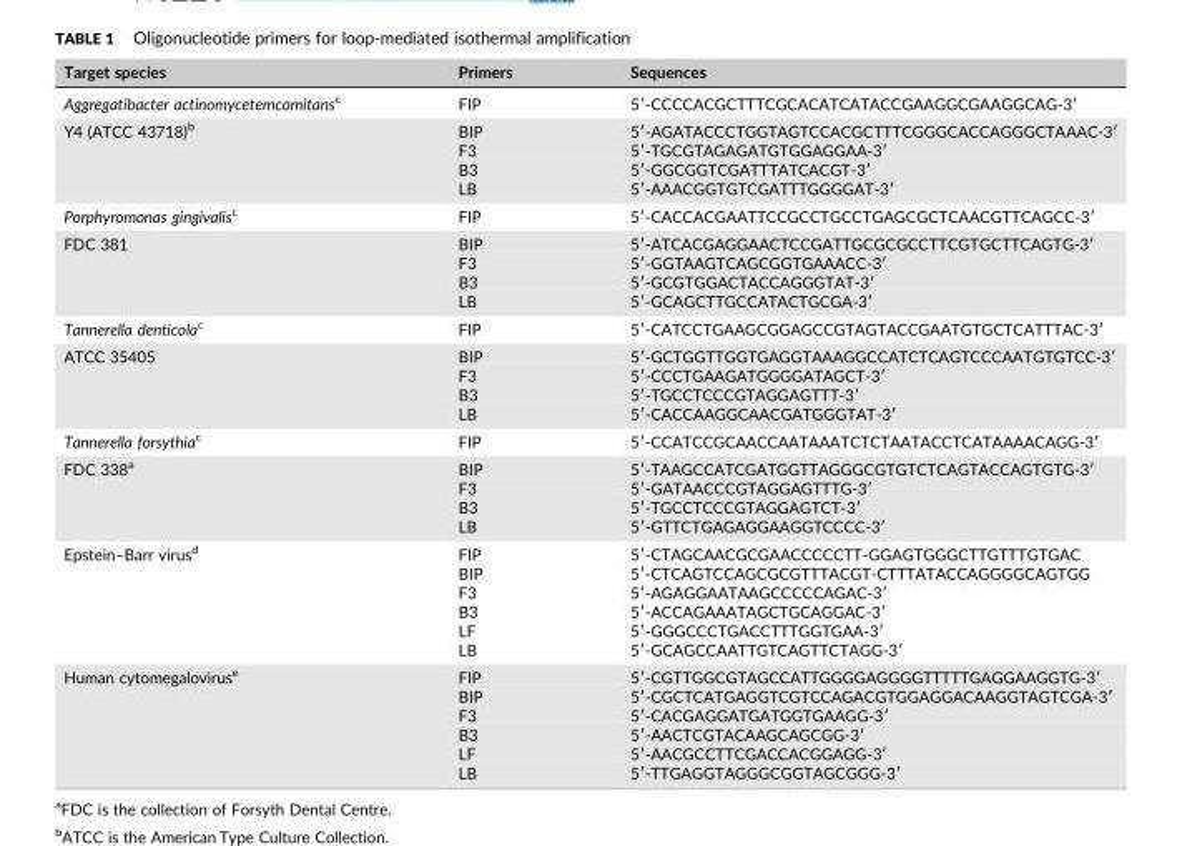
<table><thead><tr><td>Target species</td><td>Primers</td><td>Sequences</td></tr></thead><tbody><tr><td>Aggregatibacter actinomycetemcomitansc</td><td>FIP</td><td>5′‐CCCCACGCTTTCGCACATCATACCGAAGGCGAAGGCAG‐3′</td></tr><tr><td rowspan="4">Y4 (ATCC 43718)<sup>b</sup></td><td>BIP</td><td>5′‐AGATACCCTGGTAGTCCACGCTTTCGGGCACCAGGGCTAAAC‐3′</td></tr><tr><td>F3</td><td>5′‐TGCGTAGAGATGTGGAGGAA‐3′</td></tr><tr><td>B3</td><td>5′‐GGCGGTCGATTTATCACGT‐3′</td></tr><tr><td>LB</td><td>5′‐AAACGGTGTCGATTTGGGGAT‐3′</td></tr><tr><td>Porphyromonas gingivalisc</td><td>FIP</td><td>5′‐CACCACGAATTCCGCCTGCCTGAGCGCTCAACGTTCAGCC‐3′</td></tr><tr><td rowspan="4">FDC 381</td><td>BIP</td><td>5′‐ATCACGAGGAACTCCGATTGCGCGCCTTCGTGCTTCAGTG‐3′</td></tr><tr><td>F3</td><td>5′‐GGTAAGTCAGCGGTGAAACC‐3′</td></tr><tr><td>B3</td><td>5′‐GCGTGGACTACCAGGGTAT‐3′</td></tr><tr><td>LB</td><td>5′‐GCAGCTTGCCATACTGCGA‐3′</td></tr><tr><td>Tannerella denticolac</td><td>FIP</td><td>5′‐CATCCTGAAGCGGAGCCGTAGTACCGAATGTGCTCATTTAC‐3′</td></tr><tr><td rowspan="4">ATCC 35405</td><td>BIP</td><td>5′‐GCTGGTTGGTGAGGTAAAGGCCATCTCAGTCCCAATGTGTCC‐3′</td></tr><tr><td>F3</td><td>5′‐CCCTGAAGATGGGGATAGCT‐3′</td></tr><tr><td>B3</td><td>5′‐TGCCTCCCGTAGGAGTTT‐3′</td></tr><tr><td>LB</td><td>5′‐CACCAAGGCAACGATGGGTAT‐3′</td></tr><tr><td>Tannerella forsythiac</td><td>FIP</td><td>5′‐CCATCCGCAACCAATAAATCTCTAATACCTCATAAAACAGG‐3′</td></tr><tr><td rowspan="4">FDC 338<sup>a</sup></td><td>BIP</td><td>5′‐TAAGCCATCGATGGTTAGGGCGTGTCTCAGTACCAGTGTG‐3′</td></tr><tr><td>F3</td><td>5′‐GATAACCCGTAGGAGTTTG‐3′</td></tr><tr><td>B3</td><td>5′‐TGCCTCCCGTAGGAGTCT‐3′</td></tr><tr><td>LB</td><td>5′‐GTTCTGAGAGGAAGGTCCCC‐3′</td></tr><tr><td rowspan="6">Epstein–Barr virus<sup>d</sup></td><td>FIP</td><td>5′‐CTAGCAACGCGAACCCCCTT‐GGAGTGGGCTTGTTTGTGAC</td></tr><tr><td>BIP</td><td>5′‐CTCAGTCCAGCGCGTTTACGT‐CTTTATACCAGGGGCAGTGG</td></tr><tr><td>F3</td><td>5′‐AGAGGAATAAGCCCCCAGAC‐3′</td></tr><tr><td>B3</td><td>5′‐ACCAGAAATAGCTGCAGGAC‐3′</td></tr><tr><td>LF</td><td>5′‐GGGCCCTGACCTTTGGTGAA‐3′</td></tr><tr><td>LB</td><td>5′‐GCAGCCAATTGTCAGTTCTAGG‐3′</td></tr><tr><td rowspan="6">Human cytomegalovirus<sup>e</sup></td><td>FIP</td><td>5′‐CGTTGGCGTAGCCATTGGGGAGGGGTTTTTGAGGAAGGTG‐3′</td></tr><tr><td>BIP</td><td>5′‐CGCTCATGAGGTCGTCCAGACGTGGAGGACAAGGTAGTCGA‐3′</td></tr><tr><td>F3</td><td>5′‐CACGAGGATGATGGTGAAGG‐3′</td></tr><tr><td>B3</td><td>5′‐AACTCGTACAAGCAGCGG‐3′</td></tr><tr><td>LF</td><td>5′‐AACGCCTTCGACCACGGAGG‐3′</td></tr><tr><td>LB</td><td>5′‐TTGAGGTAGGGCGGTAGCGGG‐3′</td></tr></tbody></table>